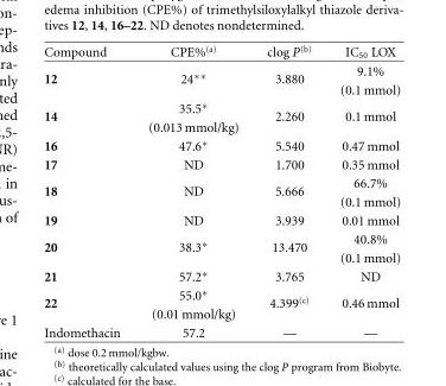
<table><tbody><tr><td>Compound</td><td>CPE%<sup>(a)</sup></td><td>clog P<sup>(b)</sup></td><td>IC<sub>50</sub> LOX</td></tr><tr><td rowspan="2">12</td><td rowspan="2">24∗∗</td><td rowspan="2">3.880</td><td>9.1%</td></tr><tr><td>(0.1 mmol)</td></tr><tr><td rowspan="2">14</td><td>35.5∗</td><td rowspan="2">2.260</td><td rowspan="2">0.1 mmol</td></tr><tr><td>(0.013 mmol/kg)</td></tr><tr><td>16</td><td>47.6∗</td><td>5.540</td><td>0.47 mmol</td></tr><tr><td>17</td><td>ND</td><td>1.700</td><td>0.35 mmol</td></tr><tr><td rowspan="2">18</td><td rowspan="2">ND</td><td rowspan="2">5.666</td><td>66.7%</td></tr><tr><td>(0.1 mmol)</td></tr><tr><td>19</td><td>ND</td><td>3.939</td><td>0.01 mmol</td></tr><tr><td rowspan="2">20</td><td rowspan="2">38.3∗</td><td rowspan="2">13.470</td><td>40.8%</td></tr><tr><td>(0.1 mmol)</td></tr><tr><td>21</td><td>57.2∗</td><td>3.765</td><td>ND</td></tr><tr><td rowspan="2">22</td><td>55.0∗</td><td rowspan="2">4.399<sup>(c)</sup></td><td rowspan="2">0.46 mmol</td></tr><tr><td>(0.01 mmol/kg)</td></tr><tr><td>Indomethacin</td><td>57.2</td><td>—</td><td>—</td></tr></tbody></table>